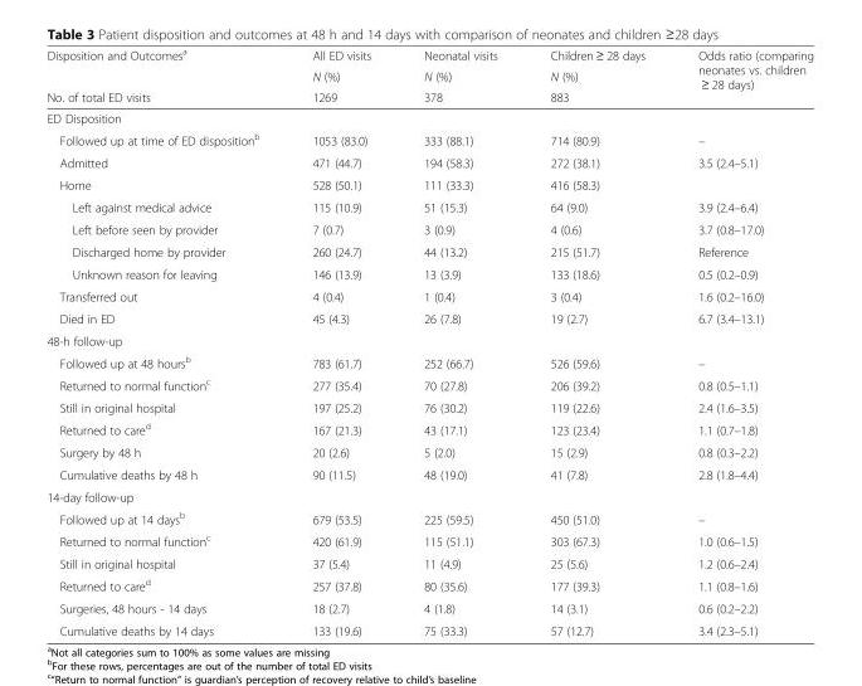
<table><thead><tr><td rowspan="3">Disposition and Outcomes<sup>a</sup> No. of total ED visits</td><td rowspan="3">All ED visits N (%) 1269</td><td rowspan="3">Neonatal visits N (%) 378</td><td rowspan="3">Children ≥ 28 days N (%) 883</td><td rowspan="3">Odds ratio (comparing neonates vs. children ≥ 28 days)</td></tr><tr></tr><tr></tr></thead><tbody><tr><td colspan="5">ED Disposition</td></tr><tr><td>Followed up at time of ED disposition<sup>b</sup></td><td>1053 (83.0)</td><td>333 (88.1)</td><td>714 (80.9)</td><td>–</td></tr><tr><td>Admitted</td><td>471 (44.7)</td><td>194 (58.3)</td><td>272 (38.1)</td><td>3.5 (2.4–5.1)</td></tr><tr><td>Home</td><td>528 (50.1)</td><td>111 (33.3)</td><td>416 (58.3)</td><td></td></tr><tr><td>Left against medical advice</td><td>115 (10.9)</td><td>51 (15.3)</td><td>64 (9.0)</td><td>3.9 (2.4–6.4)</td></tr><tr><td>Left before seen by provider</td><td>7 (0.7)</td><td>3 (0.9)</td><td>4 (0.6)</td><td>3.7 (0.8–17.0)</td></tr><tr><td>Discharged home by provider</td><td>260 (24.7)</td><td>44 (13.2)</td><td>215 (51.7)</td><td>Reference</td></tr><tr><td>Unknown reason for leaving</td><td>146 (13.9)</td><td>13 (3.9)</td><td>133 (18.6)</td><td>0.5 (0.2–0.9)</td></tr><tr><td>Transferred out</td><td>4 (0.4)</td><td>1 (0.4)</td><td>3 (0.4)</td><td>1.6 (0.2–16.0)</td></tr><tr><td>Died in ED</td><td>45 (4.3)</td><td>26 (7.8)</td><td>19 (2.7)</td><td>6.7 (3.4–13.1)</td></tr><tr><td colspan="5">48-h follow-up</td></tr><tr><td>Followed up at 48 hours<sup>b</sup></td><td>783 (61.7)</td><td>252 (66.7)</td><td>526 (59.6)</td><td>–</td></tr><tr><td>Returned to normal function<sup>c</sup></td><td>277 (35.4)</td><td>70 (27.8)</td><td>206 (39.2)</td><td>0.8 (0.5–1.1)</td></tr><tr><td>Still in original hospital</td><td>197 (25.2)</td><td>76 (30.2)</td><td>119 (22.6)</td><td>2.4 (1.6–3.5)</td></tr><tr><td>Returned to care<sup>d</sup></td><td>167 (21.3)</td><td>43 (17.1)</td><td>123 (23.4)</td><td>1.1 (0.7–1.8)</td></tr><tr><td>Surgery by 48 h</td><td>20 (2.6)</td><td>5 (2.0)</td><td>15 (2.9)</td><td>0.8 (0.3–2.2)</td></tr><tr><td>Cumulative deaths by 48 h</td><td>90 (11.5)</td><td>48 (19.0)</td><td>41 (7.8)</td><td>2.8 (1.8–4.4)</td></tr><tr><td colspan="5">14-day follow-up</td></tr><tr><td>Followed up at 14 days<sup>b</sup></td><td>679 (53.5)</td><td>225 (59.5)</td><td>450 (51.0)</td><td>–</td></tr><tr><td>Returned to normal function<sup>c</sup></td><td>420 (61.9)</td><td>115 (51.1)</td><td>303 (67.3)</td><td>1.0 (0.6–1.5)</td></tr><tr><td>Still in original hospital</td><td>37 (5.4)</td><td>11 (4.9)</td><td>25 (5.6)</td><td>1.2 (0.6–2.4)</td></tr><tr><td>Returned to care<sup>d</sup></td><td>257 (37.8)</td><td>80 (35.6)</td><td>177 (39.3)</td><td>1.1 (0.8–1.6)</td></tr><tr><td>Surgeries, 48 hours - 14 days</td><td>18 (2.7)</td><td>4 (1.8)</td><td>14 (3.1)</td><td>0.6 (0.2–2.2)</td></tr><tr><td>Cumulative deaths by 14 days</td><td>133 (19.6)</td><td>75 (33.3)</td><td>57 (12.7)</td><td>3.4 (2.3–5.1)</td></tr></tbody></table>